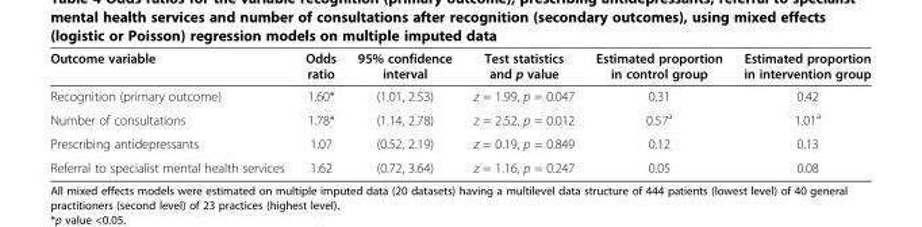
<table><thead><tr><td>Outcome variable</td><td>Odds ratio</td><td>95% confidence interval</td><td>Test statistics and p value</td><td>Estimated proportion in control group</td><td>Estimated proportion in intervention group</td></tr></thead><tbody><tr><td>Recognition (primary outcome)</td><td>1.60*</td><td>(1.01, 2.53)</td><td>z = 1.99, p = 0.047</td><td>0.31</td><td>0.42</td></tr><tr><td>Number of consultations</td><td>1.78*</td><td>(1.14, 2.78)</td><td>z = 2.52, p = 0.012</td><td>0.57<sup>a</sup></td><td>1.01<sup>a</sup></td></tr><tr><td>Prescribing antidepressants</td><td>1.07</td><td>(0.52, 2.19)</td><td>z = 0.19, p = 0.849</td><td>0.12</td><td>0.13</td></tr><tr><td>Referral to specialist mental health services</td><td>1.62</td><td>(0.72, 3.64)</td><td>z = 1.16, p = 0.247</td><td>0.05</td><td>0.08</td></tr></tbody></table>